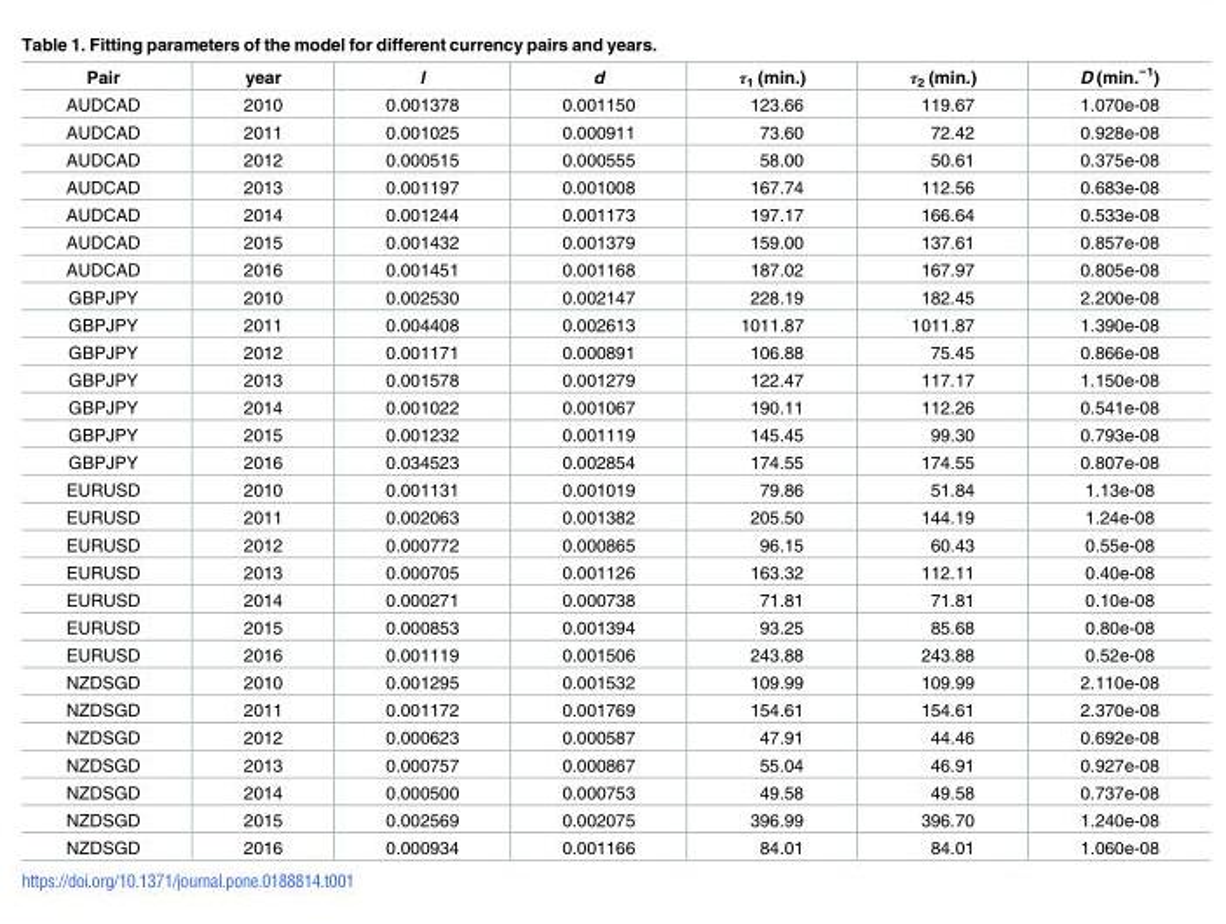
<table><thead><tr><td>Pair</td><td>year</td><td>l</td><td>d</td><td>τ<sub>1</sub> (min.)</td><td>τ<sub>2</sub> (min.)</td><td>D (min.<sup>−1</sup>)</td></tr></thead><tbody><tr><td>AUDCAD</td><td>2010</td><td>0.001378</td><td>0.001150</td><td>123.66</td><td>119.67</td><td>1.070e-08</td></tr><tr><td>AUDCAD</td><td>2011</td><td>0.001025</td><td>0.000911</td><td>73.60</td><td>72.42</td><td>0.928e-08</td></tr><tr><td>AUDCAD</td><td>2012</td><td>0.000515</td><td>0.000555</td><td>58.00</td><td>50.61</td><td>0.375e-08</td></tr><tr><td>AUDCAD</td><td>2013</td><td>0.001197</td><td>0.001008</td><td>167.74</td><td>112.56</td><td>0.683e-08</td></tr><tr><td>AUDCAD</td><td>2014</td><td>0.001244</td><td>0.001173</td><td>197.17</td><td>166.64</td><td>0.533e-08</td></tr><tr><td>AUDCAD</td><td>2015</td><td>0.001432</td><td>0.001379</td><td>159.00</td><td>137.61</td><td>0.857e-08</td></tr><tr><td>AUDCAD</td><td>2016</td><td>0.001451</td><td>0.001168</td><td>187.02</td><td>167.97</td><td>0.805e-08</td></tr><tr><td>GBPJPY</td><td>2010</td><td>0.002530</td><td>0.002147</td><td>228.19</td><td>182.45</td><td>2.200e-08</td></tr><tr><td>GBPJPY</td><td>2011</td><td>0.004408</td><td>0.002613</td><td>1011.87</td><td>1011.87</td><td>1.390e-08</td></tr><tr><td>GBPJPY</td><td>2012</td><td>0.001171</td><td>0.000891</td><td>106.88</td><td>75.45</td><td>0.866e-08</td></tr><tr><td>GBPJPY</td><td>2013</td><td>0.001578</td><td>0.001279</td><td>122.47</td><td>117.17</td><td>1.150e-08</td></tr><tr><td>GBPJPY</td><td>2014</td><td>0.001022</td><td>0.001067</td><td>190.11</td><td>112.26</td><td>0.541e-08</td></tr><tr><td>GBPJPY</td><td>2015</td><td>0.001232</td><td>0.001119</td><td>145.45</td><td>99.30</td><td>0.793e-08</td></tr><tr><td>GBPJPY</td><td>2016</td><td>0.034523</td><td>0.002854</td><td>174.55</td><td>174.55</td><td>0.807e-08</td></tr><tr><td>EURUSD</td><td>2010</td><td>0.001131</td><td>0.001019</td><td>79.86</td><td>51.84</td><td>1.13e-08</td></tr><tr><td>EURUSD</td><td>2011</td><td>0.002063</td><td>0.001382</td><td>205.50</td><td>144.19</td><td>1.24e-08</td></tr><tr><td>EURUSD</td><td>2012</td><td>0.000772</td><td>0.000865</td><td>96.15</td><td>60.43</td><td>0.55e-08</td></tr><tr><td>EURUSD</td><td>2013</td><td>0.000705</td><td>0.001126</td><td>163.32</td><td>112.11</td><td>0.40e-08</td></tr><tr><td>EURUSD</td><td>2014</td><td>0.000271</td><td>0.000738</td><td>71.81</td><td>71.81</td><td>0.10e-08</td></tr><tr><td>EURUSD</td><td>2015</td><td>0.000853</td><td>0.001394</td><td>93.25</td><td>85.68</td><td>0.80e-08</td></tr><tr><td>EURUSD</td><td>2016</td><td>0.001119</td><td>0.001506</td><td>243.88</td><td>243.88</td><td>0.52e-08</td></tr><tr><td>NZDSGD</td><td>2010</td><td>0.001295</td><td>0.001532</td><td>109.99</td><td>109.99</td><td>2.110e-08</td></tr><tr><td>NZDSGD</td><td>2011</td><td>0.001172</td><td>0.001769</td><td>154.61</td><td>154.61</td><td>2.370e-08</td></tr><tr><td>NZDSGD</td><td>2012</td><td>0.000623</td><td>0.000587</td><td>47.91</td><td>44.46</td><td>0.692e-08</td></tr><tr><td>NZDSGD</td><td>2013</td><td>0.000757</td><td>0.000867</td><td>55.04</td><td>46.91</td><td>0.927e-08</td></tr><tr><td>NZDSGD</td><td>2014</td><td>0.000500</td><td>0.000753</td><td>49.58</td><td>49.58</td><td>0.737e-08</td></tr><tr><td>NZDSGD</td><td>2015</td><td>0.002569</td><td>0.002075</td><td>396.99</td><td>396.70</td><td>1.240e-08</td></tr><tr><td>NZDSGD</td><td>2016</td><td>0.000934</td><td>0.001166</td><td>84.01</td><td>84.01</td><td>1.060e-08</td></tr></tbody></table>